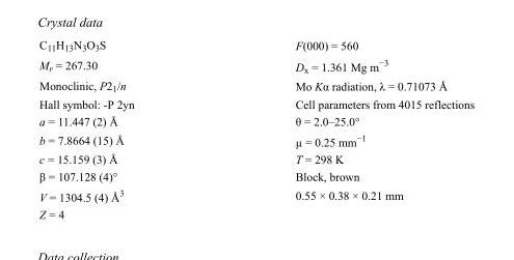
<table><tbody><tr><td>C<sub>11</sub>H<sub>13</sub>N<sub>3</sub>O<sub>3</sub>S</td><td>F(000) = 560</td></tr><tr><td>M<sub>r</sub> = 267.30</td><td>D<sub>x</sub> = 1.361 Mg m<sup>−3</sup></td></tr><tr><td>Monoclinic, P2<sub>1</sub>/n</td><td>Mo Kα radiation, λ = 0.71073 Å</td></tr><tr><td>Hall symbol: -P 2yn</td><td>Cell parameters from 4015 reflections</td></tr><tr><td>a = 11.447 (2) Å</td><td>θ = 2.0–25.0°</td></tr><tr><td>b = 7.8664 (15) Å</td><td>µ = 0.25 mm<sup>−1</sup></td></tr><tr><td>c = 15.159 (3) Å</td><td>T = 298 K</td></tr><tr><td>β = 107.128 (4)°</td><td>Block, brown</td></tr><tr><td>V = 1304.5 (4) Å<sup>3</sup></td><td>0.55 × 0.38 × 0.21 mm</td></tr><tr><td>Z = 4</td><td></td></tr></tbody></table>